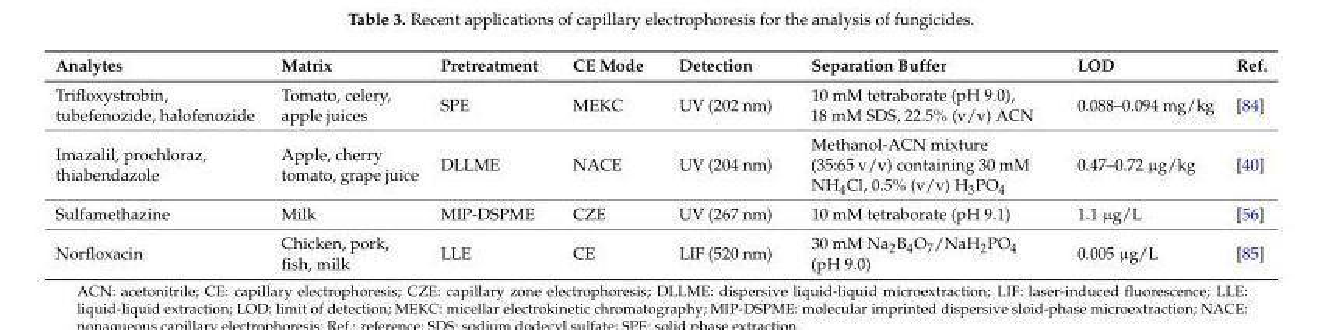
<table><thead><tr><td>Analytes</td><td>Matrix</td><td>Pretreatment</td><td>CE Mode</td><td>Detection</td><td>Separation Buffer</td><td>LOD</td><td>Ref.</td></tr></thead><tbody><tr><td>Trifloxystrobin, tubefenozide, halofenozide</td><td>Tomato, celery, apple juices</td><td>SPE</td><td>MEKC</td><td>UV (202 nm)</td><td>10 mM tetraborate (pH 9.0), 18 mM SDS, 22.5% (v/v) ACN</td><td>0.088–0.094 mg/kg</td><td>[84]</td></tr><tr><td>Imazalil, prochloraz, thiabendazole</td><td>Apple, cherry tomato, grape juice</td><td>DLLME</td><td>NACE</td><td>UV (204 nm)</td><td>Methanol-ACN mixture (35:65 v/v) containing 30 mM NH<sub>4</sub>Cl, 0.5% (v/v) H<sub>3</sub>PO<sub>4</sub></td><td>0.47–0.72 µg/kg</td><td>[40]</td></tr><tr><td>Sulfamethazine</td><td>Milk</td><td>MIP-DSPME</td><td>CZE</td><td>UV (267 nm)</td><td>10 mM tetraborate (pH 9.1)</td><td>1.1 µg/L</td><td>[56]</td></tr><tr><td>Norfloxacin</td><td>Chicken, pork, fish, milk</td><td>LLE</td><td>CE</td><td>LIF (520 nm)</td><td>30 mM Na<sub>2</sub>B<sub>4</sub>O<sub>7</sub>/NaH<sub>2</sub>PO<sub>4</sub> (pH 9.0)</td><td>0.005 µg/L</td><td>[85]</td></tr></tbody></table>